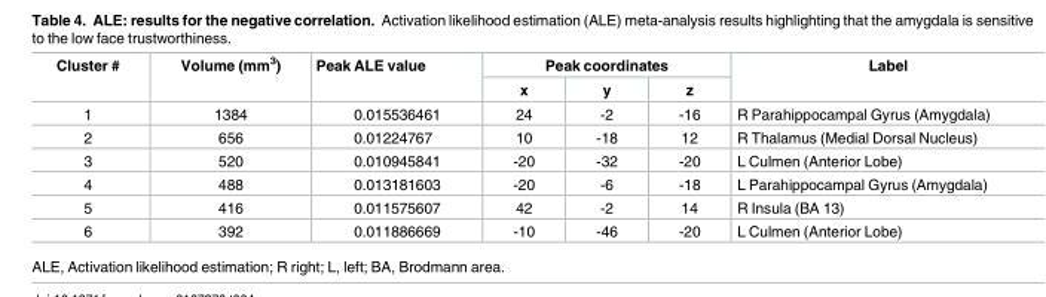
<table><thead><tr><td rowspan="2">Cluster #</td><td rowspan="2">Volume (mm<sup>3</sup>)</td><td rowspan="2">Peak ALE value</td><td colspan="3">Peak coordinates</td><td rowspan="2">Label</td></tr><tr><td>x</td><td>y</td><td>z</td></tr></thead><tbody><tr><td>1</td><td>1384</td><td>0.015536461</td><td>24</td><td>-2</td><td>-16</td><td>R Parahippocampal Gyrus (Amygdala)</td></tr><tr><td>2</td><td>656</td><td>0.01224767</td><td>10</td><td>-18</td><td>12</td><td>R Thalamus (Medial Dorsal Nucleus)</td></tr><tr><td>3</td><td>520</td><td>0.010945841</td><td>-20</td><td>-32</td><td>-20</td><td>L Culmen (Anterior Lobe)</td></tr><tr><td>4</td><td>488</td><td>0.013181603</td><td>-20</td><td>-6</td><td>-18</td><td>L Parahippocampal Gyrus (Amygdala)</td></tr><tr><td>5</td><td>416</td><td>0.011575607</td><td>42</td><td>-2</td><td>14</td><td>R Insula (BA 13)</td></tr><tr><td>6</td><td>392</td><td>0.011886669</td><td>-10</td><td>-46</td><td>-20</td><td>L Culmen (Anterior Lobe)</td></tr></tbody></table>